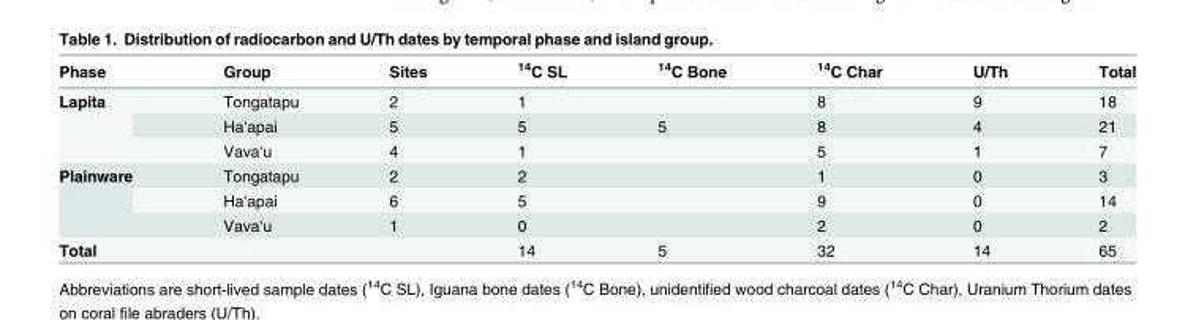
<table><thead><tr><td>Phase</td><td>Group</td><td>Sites</td><td><sup>14</sup>C SL</td><td><sup>14</sup>C Bone</td><td><sup>14</sup>C Char</td><td>U/Th</td><td>Total</td></tr></thead><tbody><tr><td rowspan="3">Lapita</td><td>Tongatapu</td><td>2</td><td>1</td><td></td><td>8</td><td>9</td><td>18</td></tr><tr><td>Haʻapai</td><td>5</td><td>5</td><td>5</td><td>8</td><td>4</td><td>21</td></tr><tr><td>Vavaʻu</td><td>4</td><td>1</td><td></td><td>5</td><td>1</td><td>7</td></tr><tr><td rowspan="3">Plainware</td><td>Tongatapu</td><td>2</td><td>2</td><td></td><td>1</td><td>0</td><td>3</td></tr><tr><td>Haʻapai</td><td>6</td><td>5</td><td></td><td>9</td><td>0</td><td>14</td></tr><tr><td>Vavaʻu</td><td>1</td><td>0</td><td></td><td>2</td><td>0</td><td>2</td></tr><tr><td>Total</td><td></td><td></td><td>14</td><td>5</td><td>32</td><td>14</td><td>65</td></tr></tbody></table>